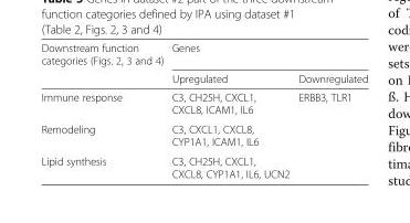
<table><thead><tr><td rowspan="2">Downstream function categories (Figs. 2, 3 and 4)</td><td colspan="2">Genes</td></tr><tr><td>Upregulated</td><td>Downregulated</td></tr></thead><tbody><tr><td>Immune response</td><td>C3, CH25H, CXCL1, CXCL8, ICAM1, IL6</td><td>ERBB3, TLR1</td></tr><tr><td>Remodeling</td><td>C3, CXCL1, CXCL8, CYP1A1, ICAM1, IL6</td><td></td></tr><tr><td>Lipid synthesis</td><td>C3, CH25H, CXCL1, CXCL8, CYP1A1, IL6, UCN2</td><td></td></tr></tbody></table>